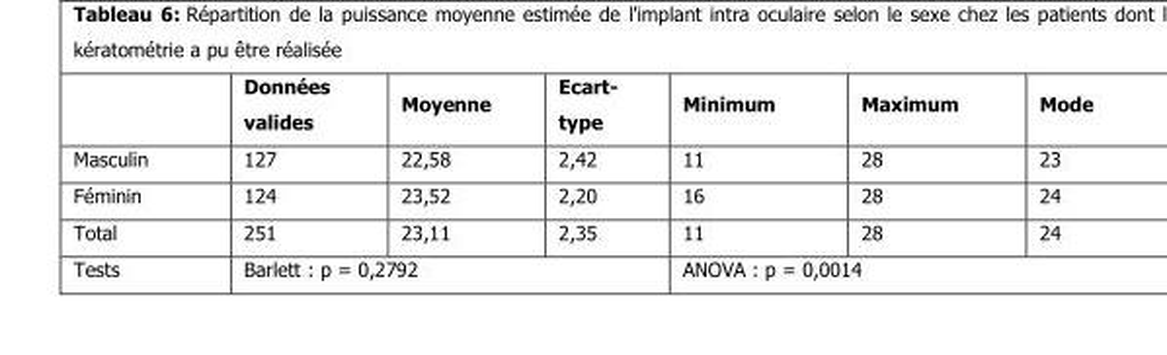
<table><thead><tr><td></td><td>Données valides</td><td>Moyenne</td><td>Ecart- type</td><td>Minimum</td><td>Maximum</td><td>Mode</td></tr></thead><tbody><tr><td>Masculin</td><td>127</td><td>22,58</td><td>2,42</td><td>11</td><td>28</td><td>23</td></tr><tr><td>Féminin</td><td>124</td><td>23,52</td><td>2,20</td><td>16</td><td>28</td><td>24</td></tr><tr><td>Total</td><td>251</td><td>23,11</td><td>2,35</td><td>11</td><td>28</td><td>24</td></tr><tr><td>Tests</td><td colspan="3">Barlett : p = 0,2792</td><td colspan="3">ANOVA : p = 0,0014</td></tr></tbody></table>